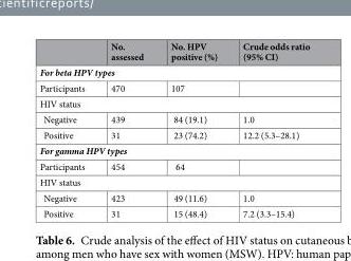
<table><thead><tr><td></td><td>No. assessed</td><td>No. HPV positive (%)</td><td>Crude odds ratio (95% CI)</td></tr></thead><tbody><tr><td colspan="4">For beta HPV types</td></tr><tr><td>Participants</td><td>470</td><td>107</td><td></td></tr><tr><td colspan="4">HIV status</td></tr><tr><td>Negative</td><td>439</td><td>84 (19.1)</td><td>1.0</td></tr><tr><td>Positive</td><td>31</td><td>23 (74.2)</td><td>12.2 (5.3–28.1)</td></tr><tr><td colspan="4">For gamma HPV types</td></tr><tr><td>Participants</td><td>454</td><td>64</td><td></td></tr><tr><td colspan="4">HIV status</td></tr><tr><td>Negative</td><td>423</td><td>49 (11.6)</td><td>1.0</td></tr><tr><td>Positive</td><td>31</td><td>15 (48.4)</td><td>7.2 (3.3–15.4)</td></tr></tbody></table>